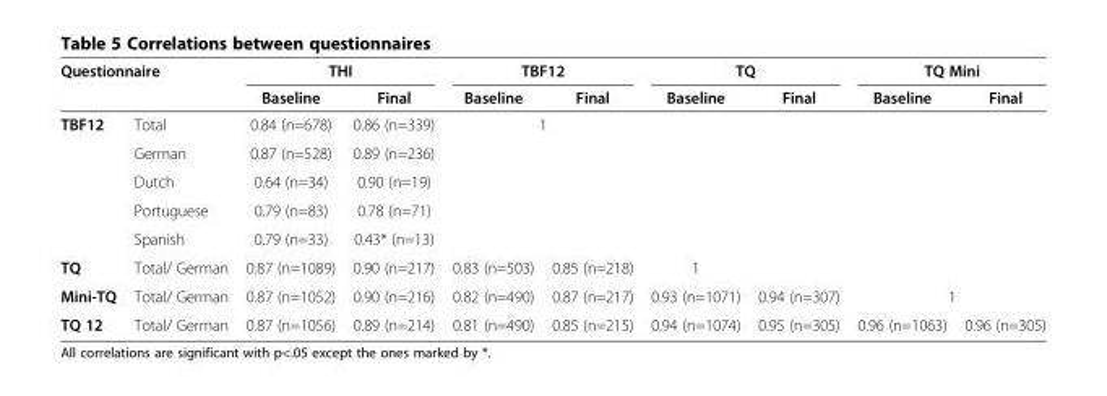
<table><thead><tr><td colspan="2">Questionnaire</td><td colspan="2">THI</td><td colspan="2">TBF12</td><td colspan="2">TQ</td><td colspan="2">TQ Mini</td></tr><tr><td></td><td></td><td>Baseline</td><td>Final</td><td>Baseline</td><td>Final</td><td>Baseline</td><td>Final</td><td>Baseline</td><td>Final</td></tr></thead><tbody><tr><td rowspan="5">TBF12</td><td>Total</td><td>0.84 (n=678)</td><td>0.86 (n=339)</td><td colspan="2">1</td><td></td><td></td><td></td><td></td></tr><tr><td>German</td><td>0.87 (n=528)</td><td>0.89 (n=236)</td><td></td><td></td><td></td><td></td><td></td><td></td></tr><tr><td>Dutch</td><td>0.64 (n=34)</td><td>0.90 (n=19)</td><td></td><td></td><td></td><td></td><td></td><td></td></tr><tr><td>Portuguese</td><td>0.79 (n=83)</td><td>0.78 (n=71)</td><td></td><td></td><td></td><td></td><td></td><td></td></tr><tr><td>Spanish</td><td>0.79 (n=33)</td><td>0.43* (n=13)</td><td></td><td></td><td></td><td></td><td></td><td></td></tr><tr><td>TQ</td><td>Total/ German</td><td>0.87 (n=1089)</td><td>0.90 (n=217)</td><td>0.83 (n=503)</td><td>0.85 (n=218)</td><td>1</td><td></td><td></td><td></td></tr><tr><td>Mini-TQ</td><td>Total/ German</td><td>0.87 (n=1052)</td><td>0.90 (n=216)</td><td>0.82 (n=490)</td><td>0.87 (n=217)</td><td>0.93 (n=1071)</td><td>0.94 (n=307)</td><td colspan="2">1</td></tr><tr><td>TQ 12</td><td>Total/ German</td><td>0.87 (n=1056)</td><td>0.89 (n=214)</td><td>0.81 (n=490)</td><td>0.85 (n=215)</td><td>0.94 (n=1074)</td><td>0.95 (n=305)</td><td>0.96 (n=1063)</td><td>0.96 (n=305)</td></tr></tbody></table>